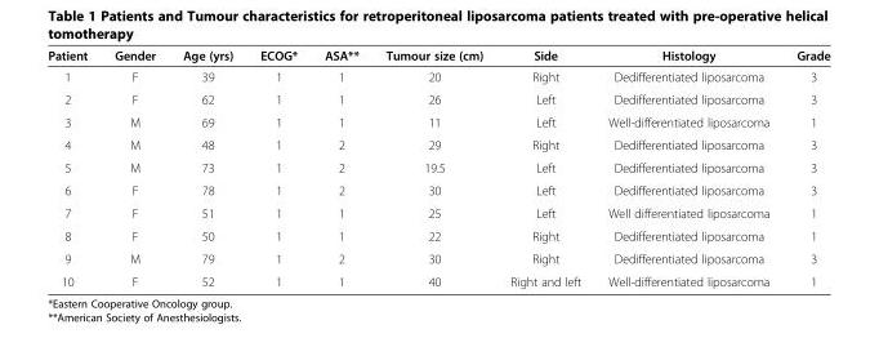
<table><thead><tr><td>Patient</td><td>Gender</td><td>Age (yrs)</td><td>ECOG*</td><td>ASA**</td><td>Tumour size (cm)</td><td>Side</td><td>Histology</td><td>Grade</td></tr></thead><tbody><tr><td>1</td><td>F</td><td>39</td><td>1</td><td>1</td><td>20</td><td>Right</td><td>Dedifferentiated liposarcoma</td><td>3</td></tr><tr><td>2</td><td>F</td><td>62</td><td>1</td><td>1</td><td>26</td><td>Left</td><td>Dedifferentiated liposarcoma</td><td>3</td></tr><tr><td>3</td><td>M</td><td>69</td><td>1</td><td>1</td><td>11</td><td>Left</td><td>Well-differentiated liposarcoma</td><td>1</td></tr><tr><td>4</td><td>M</td><td>48</td><td>1</td><td>2</td><td>29</td><td>Right</td><td>Dedifferentiated liposarcoma</td><td>3</td></tr><tr><td>5</td><td>M</td><td>73</td><td>1</td><td>2</td><td>19.5</td><td>Left</td><td>Dedifferentiated liposarcoma</td><td>3</td></tr><tr><td>6</td><td>F</td><td>78</td><td>1</td><td>2</td><td>30</td><td>Left</td><td>Dedifferentiated liposarcoma</td><td>3</td></tr><tr><td>7</td><td>F</td><td>51</td><td>1</td><td>1</td><td>25</td><td>Left</td><td>Well differentiated liposarcoma</td><td>1</td></tr><tr><td>8</td><td>F</td><td>50</td><td>1</td><td>1</td><td>22</td><td>Right</td><td>Dedifferentiated liposarcoma</td><td>1</td></tr><tr><td>9</td><td>M</td><td>79</td><td>1</td><td>2</td><td>30</td><td>Right</td><td>Dedifferentiated liposarcoma</td><td>3</td></tr><tr><td>10</td><td>F</td><td>52</td><td>1</td><td>1</td><td>40</td><td>Right and left</td><td>Well-differentiated liposarcoma</td><td>1</td></tr></tbody></table>